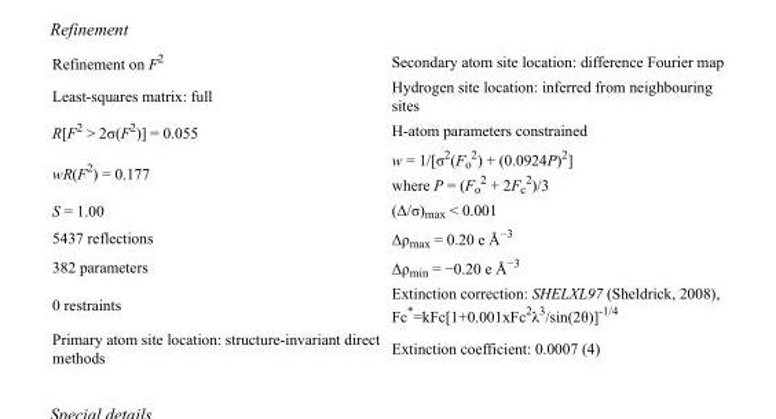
<table><tbody><tr><td>Refinement on F<sup>2</sup></td><td>Secondary atom site location: difference Fourier map</td></tr><tr><td>Least-squares matrix: full</td><td>Hydrogen site location: inferred from neighbouring sites</td></tr><tr><td>R[F<sup>2</sup> &gt; 2σ(F<sup>2</sup>)] = 0.055</td><td>H-atom parameters constrained</td></tr><tr><td>wR(F<sup>2</sup>) = 0.177</td><td>w = 1/[σ<sup>2</sup>(F<sub>o</sub> <sup>2</sup>) + (0.0924P)<sup>2</sup>] where P = (F<sub>o</sub> <sup>2</sup> + 2F<sub>c</sub> <sup>2</sup>)/3</td></tr><tr><td>S = 1.00</td><td>(Δ/σ)<sub>max</sub> &lt; 0.001</td></tr><tr><td>5437 reflections</td><td>Δρ<sub>max</sub> = 0.20 e Å<sup>−3</sup></td></tr><tr><td>382 parameters</td><td>Δρ<sub>min</sub> = −0.20 e Å<sup>−3</sup></td></tr><tr><td>0 restraints</td><td>Extinction correction: SHELXL97 (Sheldrick, 2008), Fc*=kFc[1+0.001xFc<sup>2</sup>λ<sup>3</sup>/sin(2θ)]<sup>-1/4</sup></td></tr><tr><td>Primary atom site location: structure-invariant direct methods</td><td>Extinction coefficient: 0.0007 (4)</td></tr></tbody></table>